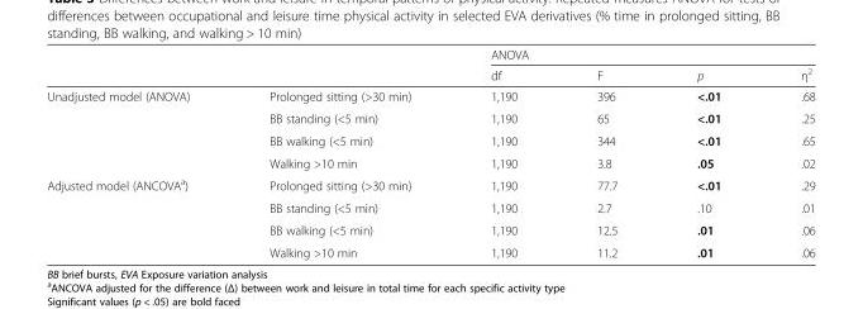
<table><thead><tr><td rowspan="2"></td><td rowspan="2"></td><td colspan="4">ANOVA</td></tr><tr><td>df</td><td>F</td><td>p</td><td>η<sup>2</sup></td></tr></thead><tbody><tr><td rowspan="4">Unadjusted model (ANOVA)</td><td>Prolonged sitting (&gt;30 min)</td><td>1,190</td><td>396</td><td>&lt;.01</td><td>.68</td></tr><tr><td>BB standing (&lt;5 min)</td><td>1,190</td><td>65</td><td>&lt;.01</td><td>.25</td></tr><tr><td>BB walking (&lt;5 min)</td><td>1,190</td><td>344</td><td>&lt;.01</td><td>.65</td></tr><tr><td>Walking &gt;10 min</td><td>1,190</td><td>3.8</td><td>.05</td><td>.02</td></tr><tr><td rowspan="4">Adjusted model (ANCOVA<sup>a</sup>)</td><td>Prolonged sitting (&gt;30 min)</td><td>1,190</td><td>77.7</td><td>&lt;.01</td><td>.29</td></tr><tr><td>BB standing (&lt;5 min)</td><td>1,190</td><td>2.7</td><td>.10</td><td>.01</td></tr><tr><td>BB walking (&lt;5 min)</td><td>1,190</td><td>12.5</td><td>.01</td><td>.06</td></tr><tr><td>Walking &gt;10 min</td><td>1,190</td><td>11.2</td><td>.01</td><td>.06</td></tr></tbody></table>